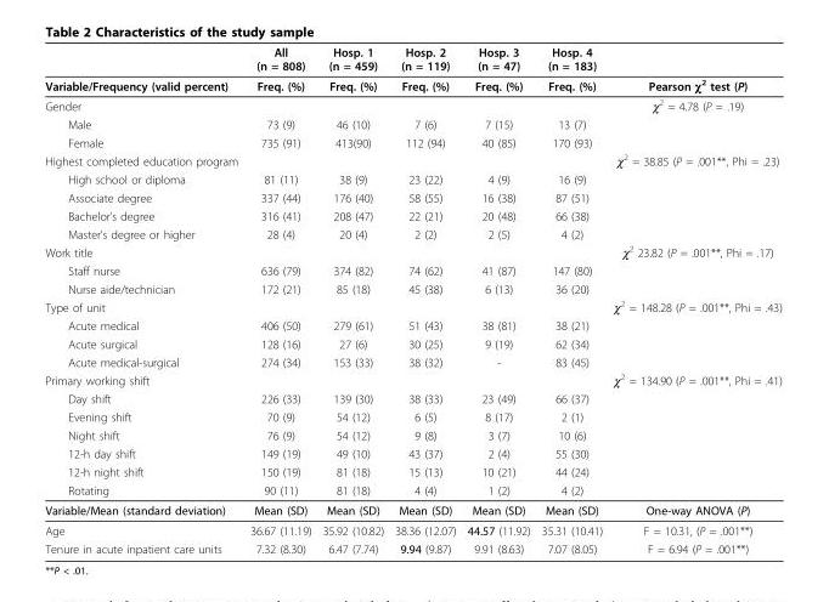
<table><thead><tr><td></td><td>All (n = 808)</td><td>Hosp. 1 (n = 459)</td><td>Hosp. 2 (n = 119)</td><td>Hosp. 3 (n = 47)</td><td>Hosp. 4 (n = 183)</td><td></td></tr></thead><tbody><tr><td>Variable/Frequency (valid percent)</td><td>Freq. (%)</td><td>Freq. (%)</td><td>Freq. (%)</td><td>Freq. (%)</td><td>Freq. (%)</td><td>Pearson χ<sup>2</sup> test (P)</td></tr><tr><td>Gender</td><td></td><td></td><td></td><td></td><td></td><td>χ<sup>2</sup> = 4.78 (P = .19)</td></tr><tr><td>Male</td><td>73 (9)</td><td>46 (10)</td><td>7 (6)</td><td>7 (15)</td><td>13 (7)</td><td></td></tr><tr><td>Female</td><td>735 (91)</td><td>413(90)</td><td>112 (94)</td><td>40 (85)</td><td>170 (93)</td><td></td></tr><tr><td>Highest completed education program</td><td></td><td></td><td></td><td></td><td></td><td>χ<sup>2</sup> = 38.85 (P = .001**, Phi = .23)</td></tr><tr><td>High school or diploma</td><td>81 (11)</td><td>38 (9)</td><td>23 (22)</td><td>4 (9)</td><td>16 (9)</td><td></td></tr><tr><td>Associate degree</td><td>337 (44)</td><td>176 (40)</td><td>58 (55)</td><td>16 (38)</td><td>87 (51)</td><td></td></tr><tr><td>Bachelor’s degree</td><td>316 (41)</td><td>208 (47)</td><td>22 (21)</td><td>20 (48)</td><td>66 (38)</td><td></td></tr><tr><td>Master’s degree or higher</td><td>28 (4)</td><td>20 (4)</td><td>2 (2)</td><td>2 (5)</td><td>4 (2)</td><td></td></tr><tr><td>Work title</td><td></td><td></td><td></td><td></td><td></td><td>χ<sup>2</sup> 23.82 (P = .001**, Phi = .17)</td></tr><tr><td>Staff nurse</td><td>636 (79)</td><td>374 (82)</td><td>74 (62)</td><td>41 (87)</td><td>147 (80)</td><td></td></tr><tr><td>Nurse aide/technician</td><td>172 (21)</td><td>85 (18)</td><td>45 (38)</td><td>6 (13)</td><td>36 (20)</td><td></td></tr><tr><td>Type of unit</td><td></td><td></td><td></td><td></td><td></td><td>χ<sup>2</sup> = 148.28 (P = .001**, Phi = .43)</td></tr><tr><td>Acute medical</td><td>406 (50)</td><td>279 (61)</td><td>51 (43)</td><td>38 (81)</td><td>38 (21)</td><td></td></tr><tr><td>Acute surgical</td><td>128 (16)</td><td>27 (6)</td><td>30 (25)</td><td>9 (19)</td><td>62 (34)</td><td></td></tr><tr><td>Acute medical-surgical</td><td>274 (34)</td><td>153 (33)</td><td>38 (32)</td><td>-</td><td>83 (45)</td><td></td></tr><tr><td>Primary working shift</td><td></td><td></td><td></td><td></td><td></td><td>χ<sup>2</sup> = 134.90 (P = .001**, Phi = .41)</td></tr><tr><td>Day shift</td><td>226 (33)</td><td>139 (30)</td><td>38 (33)</td><td>23 (49)</td><td>66 (37)</td><td></td></tr><tr><td>Evening shift</td><td>70 (9)</td><td>54 (12)</td><td>6 (5)</td><td>8 (17)</td><td>2 (1)</td><td></td></tr><tr><td>Night shift</td><td>76 (9)</td><td>54 (12)</td><td>9 (8)</td><td>3 (7)</td><td>10 (6)</td><td></td></tr><tr><td>12-h day shift</td><td>149 (19)</td><td>49 (10)</td><td>43 (37)</td><td>2 (4)</td><td>55 (30)</td><td></td></tr><tr><td>12-h night shift</td><td>150 (19)</td><td>81 (18)</td><td>15 (13)</td><td>10 (21)</td><td>44 (24)</td><td></td></tr><tr><td>Rotating</td><td>90 (11)</td><td>81 (18)</td><td>4 (4)</td><td>1 (2)</td><td>4 (2)</td><td></td></tr><tr><td>Variable/Mean (standard deviation)</td><td>Mean (SD)</td><td>Mean (SD)</td><td>Mean (SD)</td><td>Mean (SD)</td><td>Mean (SD)</td><td>One-way ANOVA (P)</td></tr><tr><td>Age</td><td>36.67 (11.19)</td><td>35.92 (10.82)</td><td>38.36 (12.07)</td><td>44.57 (11.92)</td><td>35.31 (10.41)</td><td>F = 10.31, (P = .001**)</td></tr><tr><td>Tenure in acute inpatient care units</td><td>7.32 (8.30)</td><td>6.47 (7.74)</td><td>9.94 (9.87)</td><td>9.91 (8.63)</td><td>7.07 (8.05)</td><td>F = 6.94 (P = .001**)</td></tr></tbody></table>